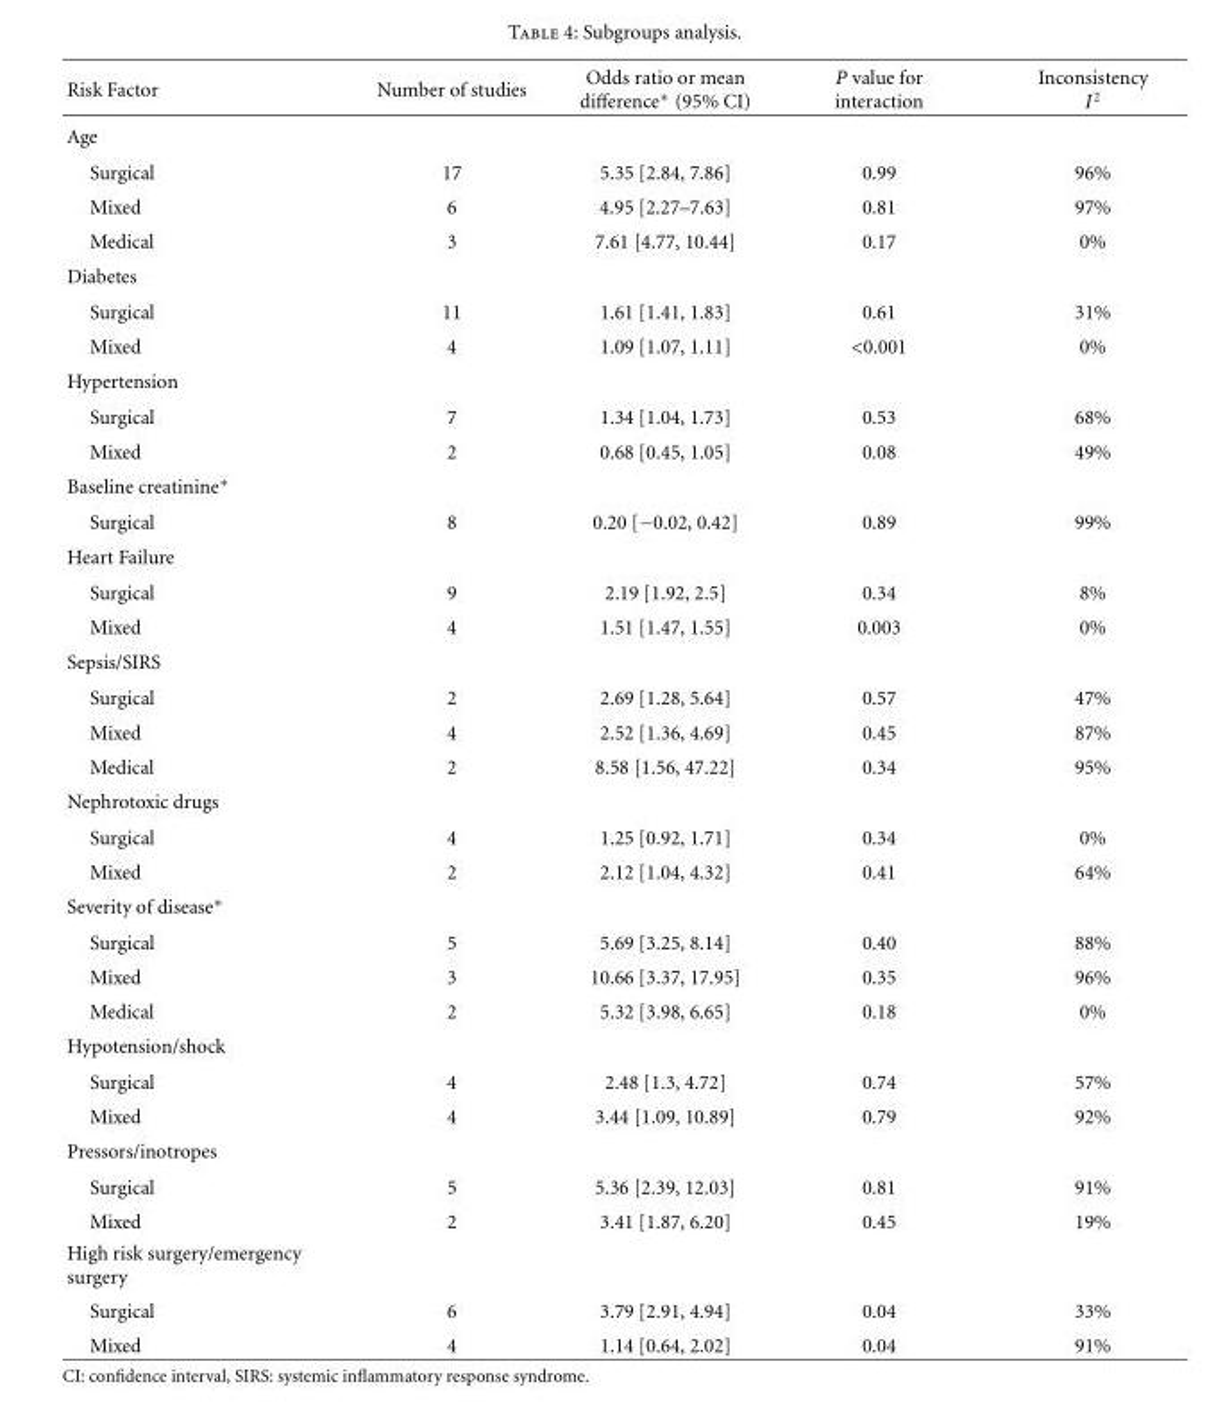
<table><thead><tr><td>Risk Factor</td><td>Number of studies</td><td>Odds ratio or mean difference∗ (95% CI)</td><td>P value for interaction</td><td>Inconsistency I<sup>2</sup></td></tr></thead><tbody><tr><td colspan="5">Age</td></tr><tr><td>Surgical</td><td>17</td><td>5.35 [2.84, 7.86]</td><td>0.99</td><td>96%</td></tr><tr><td>Mixed</td><td>6</td><td>4.95 [2.27–7.63]</td><td>0.81</td><td>97%</td></tr><tr><td>Medical</td><td>3</td><td>7.61 [4.77, 10.44]</td><td>0.17</td><td>0%</td></tr><tr><td colspan="5">Diabetes</td></tr><tr><td>Surgical</td><td>11</td><td>1.61 [1.41, 1.83]</td><td>0.61</td><td>31%</td></tr><tr><td>Mixed</td><td>4</td><td>1.09 [1.07, 1.11]</td><td>&lt;0.001</td><td>0%</td></tr><tr><td colspan="5">Hypertension</td></tr><tr><td>Surgical</td><td>7</td><td>1.34 [1.04, 1.73]</td><td>0.53</td><td>68%</td></tr><tr><td>Mixed</td><td>2</td><td>0.68 [0.45, 1.05]</td><td>0.08</td><td>49%</td></tr><tr><td colspan="5">Baseline creatinine∗</td></tr><tr><td>Surgical</td><td>8</td><td>0.20 [−0.02, 0.42]</td><td>0.89</td><td>99%</td></tr><tr><td colspan="5">Heart Failure</td></tr><tr><td>Surgical</td><td>9</td><td>2.19 [1.92, 2.5]</td><td>0.34</td><td>8%</td></tr><tr><td>Mixed</td><td>4</td><td>1.51 [1.47, 1.55]</td><td>0.003</td><td>0%</td></tr><tr><td colspan="5">Sepsis/SIRS</td></tr><tr><td>Surgical</td><td>2</td><td>2.69 [1.28, 5.64]</td><td>0.57</td><td>47%</td></tr><tr><td>Mixed</td><td>4</td><td>2.52 [1.36, 4.69]</td><td>0.45</td><td>87%</td></tr><tr><td>Medical</td><td>2</td><td>8.58 [1.56, 47.22]</td><td>0.34</td><td>95%</td></tr><tr><td colspan="5">Nephrotoxic drugs</td></tr><tr><td>Surgical</td><td>4</td><td>1.25 [0.92, 1.71]</td><td>0.34</td><td>0%</td></tr><tr><td>Mixed</td><td>2</td><td>2.12 [1.04, 4.32]</td><td>0.41</td><td>64%</td></tr><tr><td colspan="5">Severity of disease∗</td></tr><tr><td>Surgical</td><td>5</td><td>5.69 [3.25, 8.14]</td><td>0.40</td><td>88%</td></tr><tr><td>Mixed</td><td>3</td><td>10.66 [3.37, 17.95]</td><td>0.35</td><td>96%</td></tr><tr><td>Medical</td><td>2</td><td>5.32 [3.98, 6.65]</td><td>0.18</td><td>0%</td></tr><tr><td colspan="5">Hypotension/shock</td></tr><tr><td>Surgical</td><td>4</td><td>2.48 [1.3, 4.72]</td><td>0.74</td><td>57%</td></tr><tr><td>Mixed</td><td>4</td><td>3.44 [1.09, 10.89]</td><td>0.79</td><td>92%</td></tr><tr><td colspan="5">Pressors/inotropes</td></tr><tr><td>Surgical</td><td>5</td><td>5.36 [2.39, 12.03]</td><td>0.81</td><td>91%</td></tr><tr><td>Mixed</td><td>2</td><td>3.41 [1.87, 6.20]</td><td>0.45</td><td>19%</td></tr><tr><td colspan="5">High risk surgery/emergency surgery</td></tr><tr><td>Surgical</td><td>6</td><td>3.79 [2.91, 4.94]</td><td>0.04</td><td>33%</td></tr><tr><td>Mixed</td><td>4</td><td>1.14 [0.64, 2.02]</td><td>0.04</td><td>91%</td></tr></tbody></table>